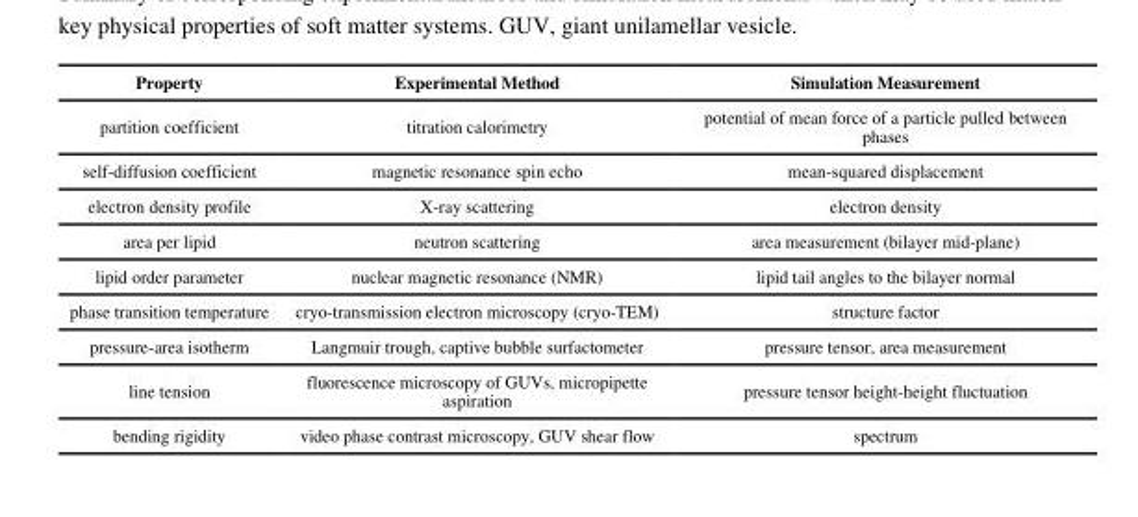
<table><thead><tr><td>Property</td><td>Experimental Method</td><td>Simulation Measurement</td></tr></thead><tbody><tr><td>partition coefficient</td><td>titration calorimetry</td><td>potential of mean force of a particle pulled between phases</td></tr><tr><td>self-diffusion coefficient</td><td>magnetic resonance spin echo</td><td>mean-squared displacement</td></tr><tr><td>electron density profile</td><td>X-ray scattering</td><td>electron density</td></tr><tr><td>area per lipid</td><td>neutron scattering</td><td>area measurement (bilayer mid-plane)</td></tr><tr><td>lipid order parameter</td><td>nuclear magnetic resonance (NMR)</td><td>lipid tail angles to the bilayer normal</td></tr><tr><td>phase transition temperature</td><td>cryo-transmission electron microscopy (cryo-TEM)</td><td>structure factor</td></tr><tr><td>pressure-area isotherm</td><td>Langmuir trough, captive bubble surfactometer</td><td>pressure tensor, area measurement</td></tr><tr><td>line tension</td><td>fluorescence microscopy of GUVs, micropipette aspiration</td><td>pressure tensor height-height fluctuation</td></tr><tr><td>bending rigidity</td><td>video phase contrast microscopy, GUV shear flow</td><td>spectrum</td></tr></tbody></table>